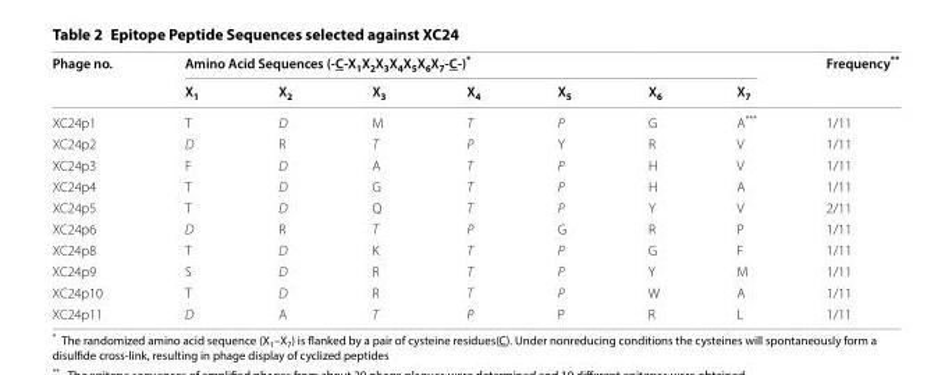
<table><thead><tr><td rowspan="2">Phage no.</td><td colspan="7">Amino Acid Sequences (‑C‑X<sub>1</sub>X<sub>2</sub>X<sub>3</sub>X<sub>4</sub>X<sub>5</sub>X<sub>6</sub>X<sub>7</sub>‑C‑)*</td><td rowspan="2">Frequency**</td></tr><tr><td>X<sub>1</sub></td><td>X<sub>2</sub></td><td>X<sub>3</sub></td><td>X<sub>4</sub></td><td>X<sub>5</sub></td><td>X<sub>6</sub></td><td>X<sub>7</sub></td></tr></thead><tbody><tr><td>XC24p1</td><td>T</td><td>D</td><td>M</td><td>T</td><td>P</td><td>G</td><td>A***</td><td>1/11</td></tr><tr><td>XC24p2</td><td>D</td><td>R</td><td>T</td><td>P</td><td>Y</td><td>R</td><td>V</td><td>1/11</td></tr><tr><td>XC24p3</td><td>F</td><td>D</td><td>A</td><td>T</td><td>P</td><td>H</td><td>V</td><td>1/11</td></tr><tr><td>XC24p4</td><td>T</td><td>D</td><td>G</td><td>T</td><td>P</td><td>H</td><td>A</td><td>1/11</td></tr><tr><td>XC24p5</td><td>T</td><td>D</td><td>Q</td><td>T</td><td>P</td><td>Y</td><td>V</td><td>2/11</td></tr><tr><td>XC24p6</td><td>D</td><td>R</td><td>T</td><td>P</td><td>G</td><td>R</td><td>P</td><td>1/11</td></tr><tr><td>XC24p8</td><td>T</td><td>D</td><td>K</td><td>T</td><td>P</td><td>G</td><td>F</td><td>1/11</td></tr><tr><td>XC24p9</td><td>S</td><td>D</td><td>R</td><td>T</td><td>P</td><td>Y</td><td>M</td><td>1/11</td></tr><tr><td>XC24p10</td><td>T</td><td>D</td><td>R</td><td>T</td><td>P</td><td>W</td><td>A</td><td>1/11</td></tr><tr><td>XC24p11</td><td>D</td><td>A</td><td>T</td><td>P</td><td>P</td><td>R</td><td>L</td><td>1/11</td></tr></tbody></table>